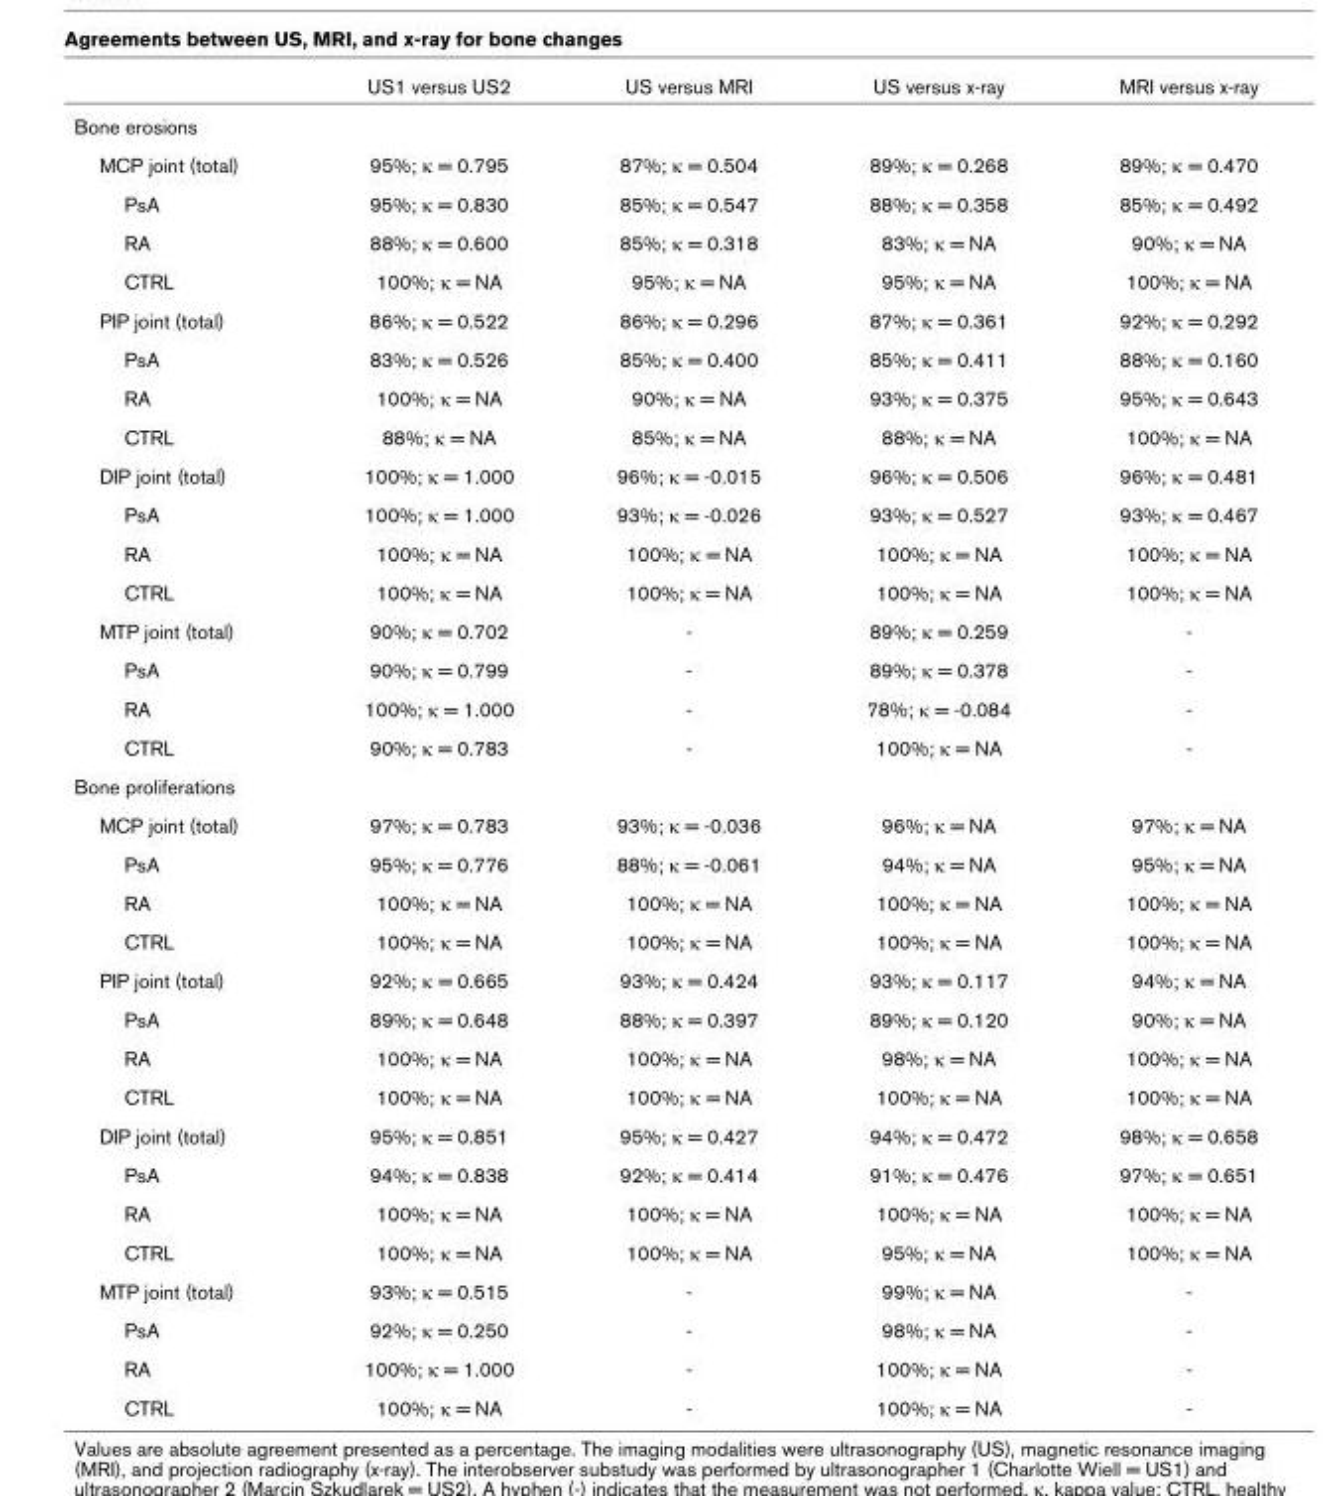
<table><thead><tr><td></td><td>US1 versus US2</td><td>US versus MRI</td><td>US versus x-ray</td><td>MRI versus x-ray</td></tr></thead><tbody><tr><td colspan="5">Bone erosions</td></tr><tr><td>MCP joint (total)</td><td>95%; κ = 0.795</td><td>87%; κ = 0.504</td><td>89%; κ = 0.268</td><td>89%; κ = 0.470</td></tr><tr><td>PsA</td><td>95%; κ = 0.830</td><td>85%; κ = 0.547</td><td>88%; κ = 0.358</td><td>85%; κ = 0.492</td></tr><tr><td>RA</td><td>88%; κ = 0.600</td><td>85%; κ = 0.318</td><td>83%; κ = NA</td><td>90%; κ = NA</td></tr><tr><td>CTRL</td><td>100%; κ = NA</td><td>95%; κ = NA</td><td>95%; κ = NA</td><td>100%; κ = NA</td></tr><tr><td>PIP joint (total)</td><td>86%; κ = 0.522</td><td>86%; κ = 0.296</td><td>87%; κ = 0.361</td><td>92%; κ = 0.292</td></tr><tr><td>PsA</td><td>83%; κ = 0.526</td><td>85%; κ = 0.400</td><td>85%; κ = 0.411</td><td>88%; κ = 0.160</td></tr><tr><td>RA</td><td>100%; κ = NA</td><td>90%; κ = NA</td><td>93%; κ = 0.375</td><td>95%; κ = 0.643</td></tr><tr><td>CTRL</td><td>88%; κ = NA</td><td>85%; κ = NA</td><td>88%; κ = NA</td><td>100%; κ = NA</td></tr><tr><td>DIP joint (total)</td><td>100%; κ = 1.000</td><td>96%; κ = -0.015</td><td>96%; κ = 0.506</td><td>96%; κ = 0.481</td></tr><tr><td>PsA</td><td>100%; κ = 1.000</td><td>93%; κ = -0.026</td><td>93%; κ = 0.527</td><td>93%; κ = 0.467</td></tr><tr><td>RA</td><td>100%; κ = NA</td><td>100%; κ = NA</td><td>100%; κ = NA</td><td>100%; κ = NA</td></tr><tr><td>CTRL</td><td>100%; κ = NA</td><td>100%; κ = NA</td><td>100%; κ = NA</td><td>100%; κ = NA</td></tr><tr><td>MTP joint (total)</td><td>90%; κ = 0.702</td><td>-</td><td>89%; κ = 0.259</td><td>-</td></tr><tr><td>PsA</td><td>90%; κ = 0.799</td><td>-</td><td>89%; κ = 0.378</td><td>-</td></tr><tr><td>RA</td><td>100%; κ = 1.000</td><td>-</td><td>78%; κ = -0.084</td><td>-</td></tr><tr><td>CTRL</td><td>90%; κ = 0.783</td><td>-</td><td>100%; κ = NA</td><td>-</td></tr><tr><td colspan="5">Bone proliferations</td></tr><tr><td>MCP joint (total)</td><td>97%; κ = 0.783</td><td>93%; κ = -0.036</td><td>96%; κ = NA</td><td>97%; κ = NA</td></tr><tr><td>PsA</td><td>95%; κ = 0.776</td><td>88%; κ = -0.061</td><td>94%; κ = NA</td><td>95%; κ = NA</td></tr><tr><td>RA</td><td>100%; κ = NA</td><td>100%; κ = NA</td><td>100%; κ = NA</td><td>100%; κ = NA</td></tr><tr><td>CTRL</td><td>100%; κ = NA</td><td>100%; κ = NA</td><td>100%; κ = NA</td><td>100%; κ = NA</td></tr><tr><td>PIP joint (total)</td><td>92%; κ = 0.665</td><td>93%; κ = 0.424</td><td>93%; κ = 0.117</td><td>94%; κ = NA</td></tr><tr><td>PsA</td><td>89%; κ = 0.648</td><td>88%; κ = 0.397</td><td>89%; κ = 0.120</td><td>90%; κ = NA</td></tr><tr><td>RA</td><td>100%; κ = NA</td><td>100%; κ = NA</td><td>98%; κ = NA</td><td>100%; κ = NA</td></tr><tr><td>CTRL</td><td>100%; κ = NA</td><td>100%; κ = NA</td><td>100%; κ = NA</td><td>100%; κ = NA</td></tr><tr><td>DIP joint (total)</td><td>95%; κ = 0.851</td><td>95%; κ = 0.427</td><td>94%; κ = 0.472</td><td>98%; κ = 0.658</td></tr><tr><td>PsA</td><td>94%; κ = 0.838</td><td>92%; κ = 0.414</td><td>91%; κ = 0.476</td><td>97%; κ = 0.651</td></tr><tr><td>RA</td><td>100%; κ = NA</td><td>100%; κ = NA</td><td>100%; κ = NA</td><td>100%; κ = NA</td></tr><tr><td>CTRL</td><td>100%; κ = NA</td><td>100%; κ = NA</td><td>95%; κ = NA</td><td>100%; κ = NA</td></tr><tr><td>MTP joint (total)</td><td>93%; κ = 0.515</td><td>-</td><td>99%; κ = NA</td><td>-</td></tr><tr><td>PsA</td><td>92%; κ = 0.250</td><td>-</td><td>98%; κ = NA</td><td>-</td></tr><tr><td>RA</td><td>100%; κ = 1.000</td><td>-</td><td>100%; κ = NA</td><td>-</td></tr><tr><td>CTRL</td><td>100%; κ = NA</td><td>-</td><td>100%; κ = NA</td><td>-</td></tr></tbody></table>